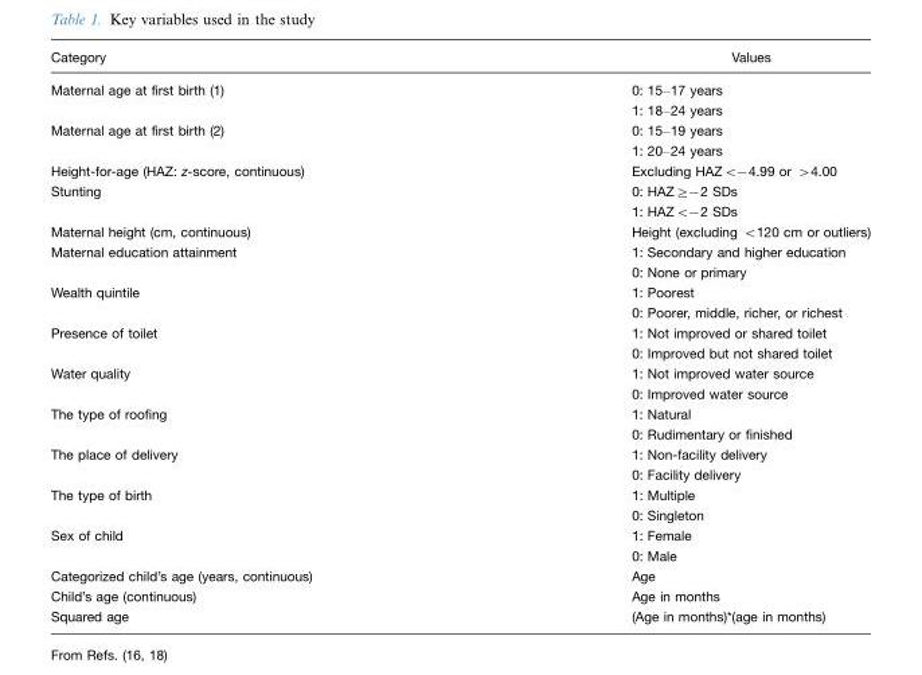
<table><thead><tr><td>Category</td><td>Values</td></tr></thead><tbody><tr><td rowspan="2">Maternal age at first birth (1)</td><td>0: 15–17 years</td></tr><tr><td>1: 18–24 years</td></tr><tr><td rowspan="2">Maternal age at first birth (2)</td><td>0: 15–19 years</td></tr><tr><td>1: 20–24 years</td></tr><tr><td>Height-for-age (HAZ: z-score, continuous)</td><td>Excluding HAZ&lt;−4.99 or &gt;4.00</td></tr><tr><td rowspan="2">Stunting</td><td>0: HAZ≥−2 SDs</td></tr><tr><td>1: HAZ&lt;−2 SDs</td></tr><tr><td>Maternal height (cm, continuous)</td><td>Height (excluding &lt;120 cm or outliers)</td></tr><tr><td rowspan="2">Maternal education attainment</td><td>1: Secondary and higher education</td></tr><tr><td>0: None or primary</td></tr><tr><td rowspan="2">Wealth quintile</td><td>1: Poorest</td></tr><tr><td>0: Poorer, middle, richer, or richest</td></tr><tr><td rowspan="2">Presence of toilet</td><td>1: Not improved or shared toilet</td></tr><tr><td>0: Improved but not shared toilet</td></tr><tr><td rowspan="2">Water quality</td><td>1: Not improved water source</td></tr><tr><td>0: Improved water source</td></tr><tr><td rowspan="2">The type of roofing</td><td>1: Natural</td></tr><tr><td>0: Rudimentary or finished</td></tr><tr><td rowspan="2">The place of delivery</td><td>1: Non-facility delivery</td></tr><tr><td>0: Facility delivery</td></tr><tr><td rowspan="2">The type of birth</td><td>1: Multiple</td></tr><tr><td>0: Singleton</td></tr><tr><td rowspan="2">Sex of child</td><td>1: Female</td></tr><tr><td>0: Male</td></tr><tr><td>Categorized child’s age (years, continuous)</td><td>Age</td></tr><tr><td>Child’s age (continuous)</td><td>Age in months</td></tr><tr><td>Squared age</td><td>(Age in months)*(age in months)</td></tr></tbody></table>